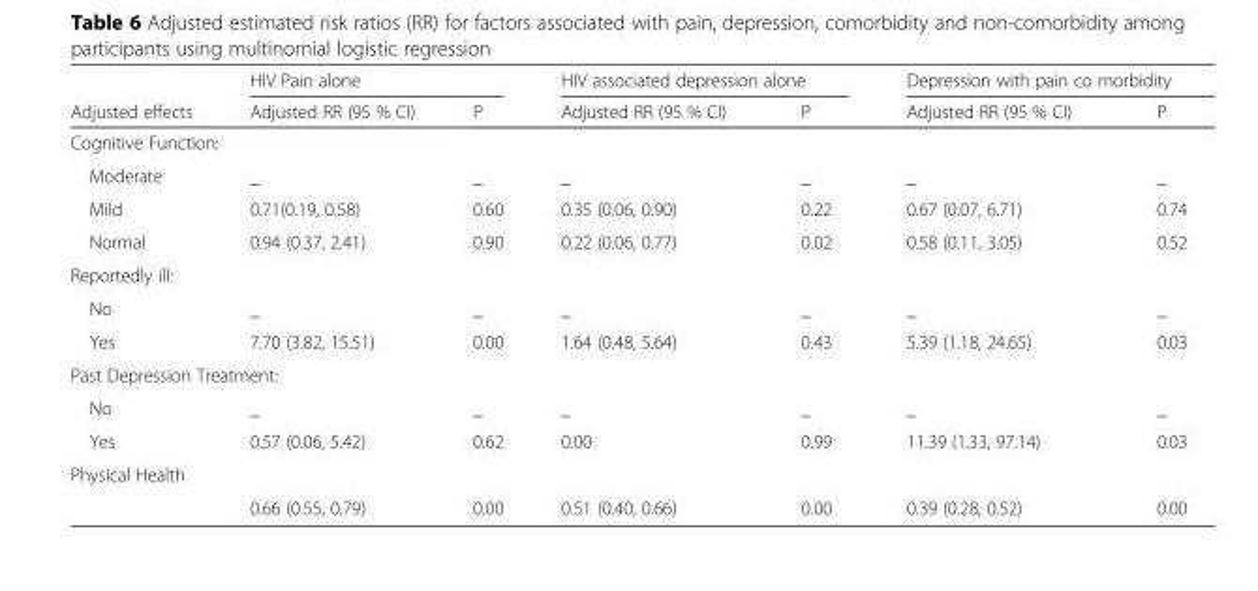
<table><thead><tr><td rowspan="2">Adjusted effects</td><td colspan="2">HIV Pain alone</td><td colspan="2">HIV associated depression alone</td><td colspan="2">Depression with pain co morbidity</td></tr><tr><td>Adjusted RR (95 % CI)</td><td>P</td><td>Adjusted RR (95 % CI)</td><td>P</td><td>Adjusted RR (95 % CI)</td><td>P</td></tr></thead><tbody><tr><td colspan="7">Cognitive Function:</td></tr><tr><td>Moderate</td><td>_</td><td>_</td><td>_</td><td>_</td><td>_</td><td>_</td></tr><tr><td>Mild</td><td>0.71(0.19, 0.58)</td><td>0.60</td><td>0.35 (0.06, 0.90)</td><td>0.22</td><td>0.67 (0.07, 6.71)</td><td>0.74</td></tr><tr><td>Normal</td><td>0.94 (0.37, 2.41)</td><td>0.90</td><td>0.22 (0.06, 0.77)</td><td>0.02</td><td>0.58 (0.11, 3.05)</td><td>0.52</td></tr><tr><td colspan="7">Reportedly ill:</td></tr><tr><td>No</td><td>_</td><td>_</td><td>_</td><td>_</td><td>_</td><td>_</td></tr><tr><td>Yes</td><td>7.70 (3.82, 15.51)</td><td>0.00</td><td>1.64 (0.48, 5.64)</td><td>0.43</td><td>5.39 (1.18, 24.65)</td><td>0.03</td></tr><tr><td colspan="7">Past Depression Treatment:</td></tr><tr><td>No</td><td>_</td><td>_</td><td>_</td><td>_</td><td>_</td><td>_</td></tr><tr><td>Yes</td><td>0.57 (0.06, 5.42)</td><td>0.62</td><td>0.00</td><td>0.99</td><td>11.39 (1.33, 97.14)</td><td>0.03</td></tr><tr><td colspan="7">Physical Health</td></tr><tr><td></td><td>0.66 (0.55, 0.79)</td><td>0.00</td><td>0.51 (0.40, 0.66)</td><td>0.00</td><td>0.39 (0.28, 0.52)</td><td>0.00</td></tr></tbody></table>